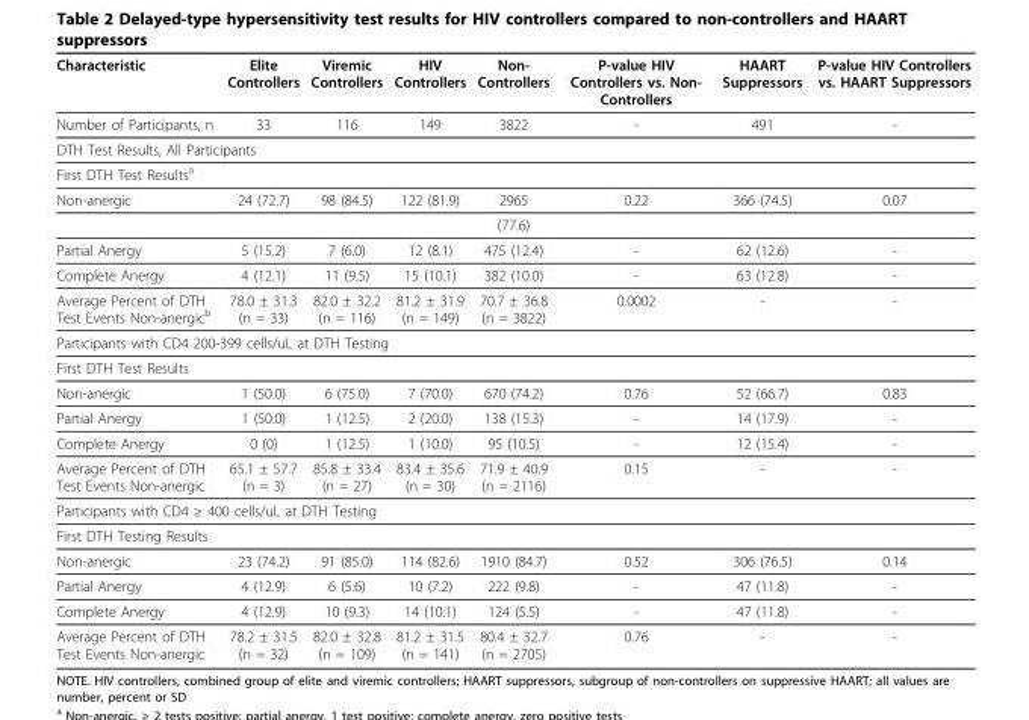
<table><thead><tr><td>Characteristic</td><td>Elite Controllers</td><td>Viremic Controllers</td><td>HIV Controllers</td><td>Non- Controllers</td><td>P-value HIV Controllers vs. Non- Controllers</td><td>HAART Suppressors</td><td>P-value HIV Controllers vs. HAART Suppressors</td></tr></thead><tbody><tr><td>Number of Participants, n</td><td>33</td><td>116</td><td>149</td><td>3822</td><td>-</td><td>491</td><td>-</td></tr><tr><td colspan="8">DTH Test Results, All Participants</td></tr><tr><td colspan="8">First DTH Test Resultsa</td></tr><tr><td rowspan="2">Non-anergic</td><td>24 (72.7)</td><td>98 (84.5)</td><td>122 (81.9)</td><td>2965</td><td>0.22</td><td>366 (74.5)</td><td>0.07</td></tr><tr><td></td><td></td><td></td><td>(77.6)</td><td></td><td></td><td></td></tr><tr><td>Partial Anergy</td><td>5 (15.2)</td><td>7 (6.0)</td><td>12 (8.1)</td><td>475 (12.4)</td><td>-</td><td>62 (12.6)</td><td>-</td></tr><tr><td>Complete Anergy</td><td>4 (12.1)</td><td>11 (9.5)</td><td>15 (10.1)</td><td>382 (10.0)</td><td>-</td><td>63 (12.8)</td><td>-</td></tr><tr><td>Average Percent of DTH Test Events Non-anergicb</td><td>78.0 ± 31.3 (n = 33)</td><td>82.0 ± 32.2 (n = 116)</td><td>81.2 ± 31.9 (n = 149)</td><td>70.7 ± 36.8 (n = 3822)</td><td>0.0002</td><td>-</td><td>-</td></tr><tr><td colspan="8">Participants with CD4 200-399 cells/uL at DTH Testing</td></tr><tr><td colspan="8">First DTH Test Results</td></tr><tr><td>Non-anergic</td><td>1 (50.0)</td><td>6 (75.0)</td><td>7 (70.0)</td><td>670 (74.2)</td><td>0.76</td><td>52 (66.7)</td><td>0.83</td></tr><tr><td>Partial Anergy</td><td>1 (50.0)</td><td>1 (12.5)</td><td>2 (20.0)</td><td>138 (15.3)</td><td>-</td><td>14 (17.9)</td><td>-</td></tr><tr><td>Complete Anergy</td><td>0 (0)</td><td>1 (12.5)</td><td>1 (10.0)</td><td>95 (10.5)</td><td>-</td><td>12 (15.4)</td><td>-</td></tr><tr><td>Average Percent of DTH Test Events Non-anergic</td><td>65.1 ± 57.7 (n = 3)</td><td>85.8 ± 33.4 (n = 27)</td><td>83.4 ± 35.6 (n = 30)</td><td>71.9 ± 40.9 (n = 2116)</td><td>0.15</td><td>-</td><td>-</td></tr><tr><td colspan="8">Participants with CD4 ≥ 400 cells/uL at DTH Testing</td></tr><tr><td colspan="8">First DTH Testing Results</td></tr><tr><td>Non-anergic</td><td>23 (74.2)</td><td>91 (85.0)</td><td>114 (82.6)</td><td>1910 (84.7)</td><td>0.52</td><td>306 (76.5)</td><td>0.14</td></tr><tr><td>Partial Anergy</td><td>4 (12.9)</td><td>6 (5.6)</td><td>10 (7.2)</td><td>222 (9.8)</td><td>-</td><td>47 (11.8)</td><td>-</td></tr><tr><td>Complete Anergy</td><td>4 (12.9)</td><td>10 (9.3)</td><td>14 (10.1)</td><td>124 (5.5)</td><td>-</td><td>47 (11.8)</td><td>-</td></tr><tr><td>Average Percent of DTH Test Events Non-anergic</td><td>78.2 ± 31.5 (n = 32)</td><td>82.0 ± 32.8 (n = 109)</td><td>81.2 ± 31.5 (n = 141)</td><td>80.4 ± 32.7 (n = 2705)</td><td>0.76</td><td>-</td><td>-</td></tr></tbody></table>